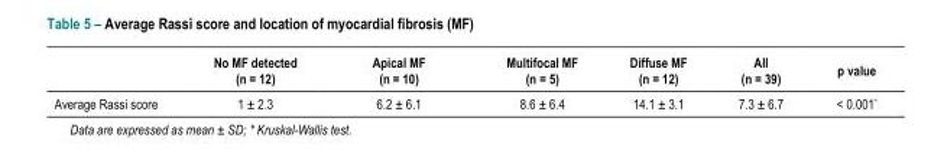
<table><thead><tr><td></td><td>No MF detected (n = 12)</td><td>Apical MF (n = 10)</td><td>Multifocal MF (n = 5)</td><td>Diffuse MF (n = 12)</td><td>All (n = 39)</td><td>p value</td></tr></thead><tbody><tr><td>Average Rassi score</td><td>1 ± 2.3</td><td>6.2 ± 6.1</td><td>8.6 ± 6.4</td><td>14.1 ± 3.1</td><td>7.3 ± 6.7</td><td>&lt; 0.001*</td></tr></tbody></table>